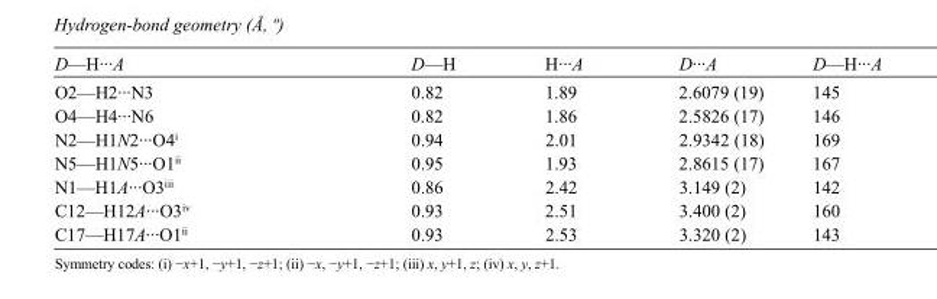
<table><tbody><tr><td>D—H···A</td><td>D—H</td><td>H···A</td><td>D···A</td><td>D—H···A</td></tr><tr><td>O2—H2···N3</td><td>0.82</td><td>1.89</td><td>2.6079 (19)</td><td>145</td></tr><tr><td>O4—H4···N6</td><td>0.82</td><td>1.86</td><td>2.5826 (17)</td><td>146</td></tr><tr><td>N2—H1N2···O4<sup>i</sup></td><td>0.94</td><td>2.01</td><td>2.9342 (18)</td><td>169</td></tr><tr><td>N5—H1N5···O1<sup>ii</sup></td><td>0.95</td><td>1.93</td><td>2.8615 (17)</td><td>167</td></tr><tr><td>N1—H1A···O3<sup>iii</sup></td><td>0.86</td><td>2.42</td><td>3.149 (2)</td><td>142</td></tr><tr><td>C12—H12A···O3<sup>iv</sup></td><td>0.93</td><td>2.51</td><td>3.400 (2)</td><td>160</td></tr><tr><td>C17—H17A···O1<sup>ii</sup></td><td>0.93</td><td>2.53</td><td>3.320 (2)</td><td>143</td></tr></tbody></table>